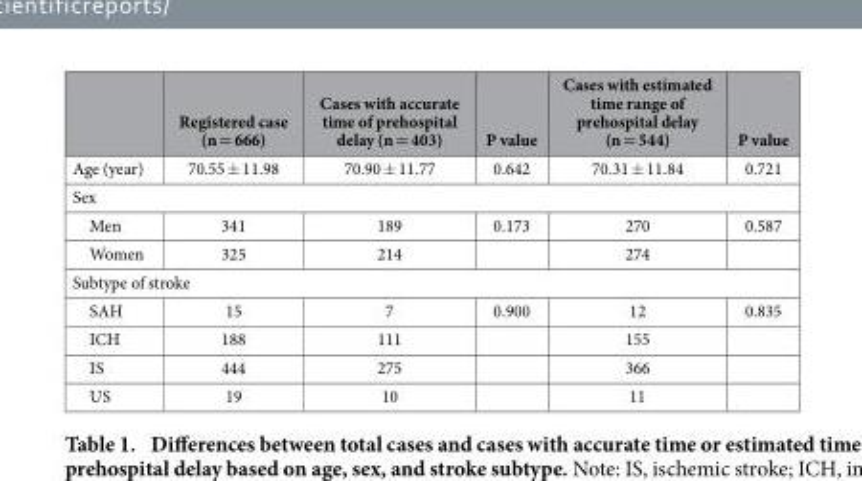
<table><thead><tr><td></td><td>Registered case (n = 666)</td><td>Cases with accurate time of prehospital delay (n = 403)</td><td>P value</td><td>Cases with estimated time range of prehospital delay (n = 544)</td><td>P value</td></tr></thead><tbody><tr><td>Age (year)</td><td>70.55 ± 11.98</td><td>70.90 ± 11.77</td><td>0.642</td><td>70.31 ± 11.84</td><td>0.721</td></tr><tr><td colspan="6">Sex</td></tr><tr><td>Men</td><td>341</td><td>189</td><td>0.173</td><td>270</td><td>0.587</td></tr><tr><td>Women</td><td>325</td><td>214</td><td></td><td>274</td><td></td></tr><tr><td colspan="6">Subtype of stroke</td></tr><tr><td>SAH</td><td>15</td><td>7</td><td>0.900</td><td>12</td><td>0.835</td></tr><tr><td>ICH</td><td>188</td><td>111</td><td></td><td>155</td><td></td></tr><tr><td>IS</td><td>444</td><td>275</td><td></td><td>366</td><td></td></tr><tr><td>US</td><td>19</td><td>10</td><td></td><td>11</td><td></td></tr></tbody></table>